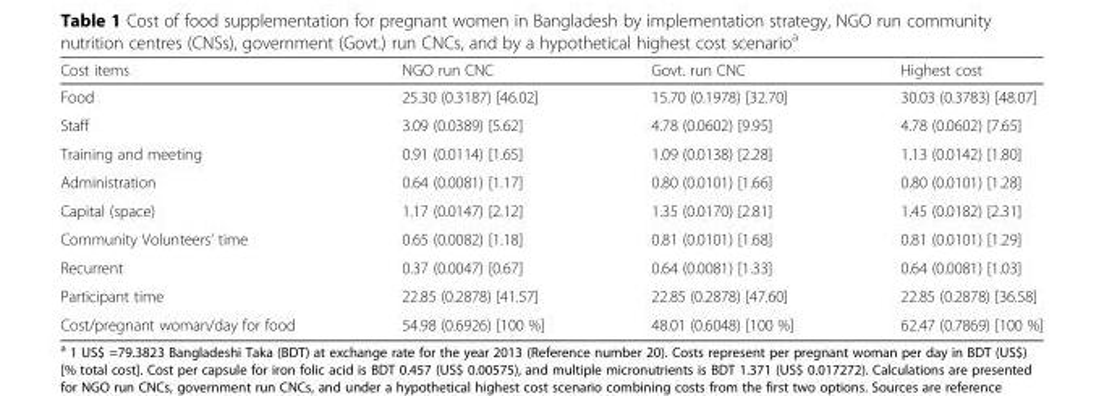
<table><thead><tr><td>Cost items</td><td>NGO run CNC</td><td>Govt. run CNC</td><td>Highest cost</td></tr></thead><tbody><tr><td>Food</td><td>25.30 (0.3187) [46.02]</td><td>15.70 (0.1978) [32.70]</td><td>30.03 (0.3783) [48.07]</td></tr><tr><td>Staff</td><td>3.09 (0.0389) [5.62]</td><td>4.78 (0.0602) [9.95]</td><td>4.78 (0.0602) [7.65]</td></tr><tr><td>Training and meeting</td><td>0.91 (0.0114) [1.65]</td><td>1.09 (0.0138) [2.28]</td><td>1.13 (0.0142) [1.80]</td></tr><tr><td>Administration</td><td>0.64 (0.0081) [1.17]</td><td>0.80 (0.0101) [1.66]</td><td>0.80 (0.0101) [1.28]</td></tr><tr><td>Capital (space)</td><td>1.17 (0.0147) [2.12]</td><td>1.35 (0.0170) [2.81]</td><td>1.45 (0.0182) [2.31]</td></tr><tr><td>Community Volunteers’ time</td><td>0.65 (0.0082) [1.18]</td><td>0.81 (0.0101) [1.68]</td><td>0.81 (0.0101) [1.29]</td></tr><tr><td>Recurrent</td><td>0.37 (0.0047) [0.67]</td><td>0.64 (0.0081) [1.33]</td><td>0.64 (0.0081) [1.03]</td></tr><tr><td>Participant time</td><td>22.85 (0.2878) [41.57]</td><td>22.85 (0.2878) [47.60]</td><td>22.85 (0.2878) [36.58]</td></tr><tr><td>Cost/pregnant woman/day for food</td><td>54.98 (0.6926) [100 %]</td><td>48.01 (0.6048) [100 %]</td><td>62.47 (0.7869) [100 %]</td></tr></tbody></table>